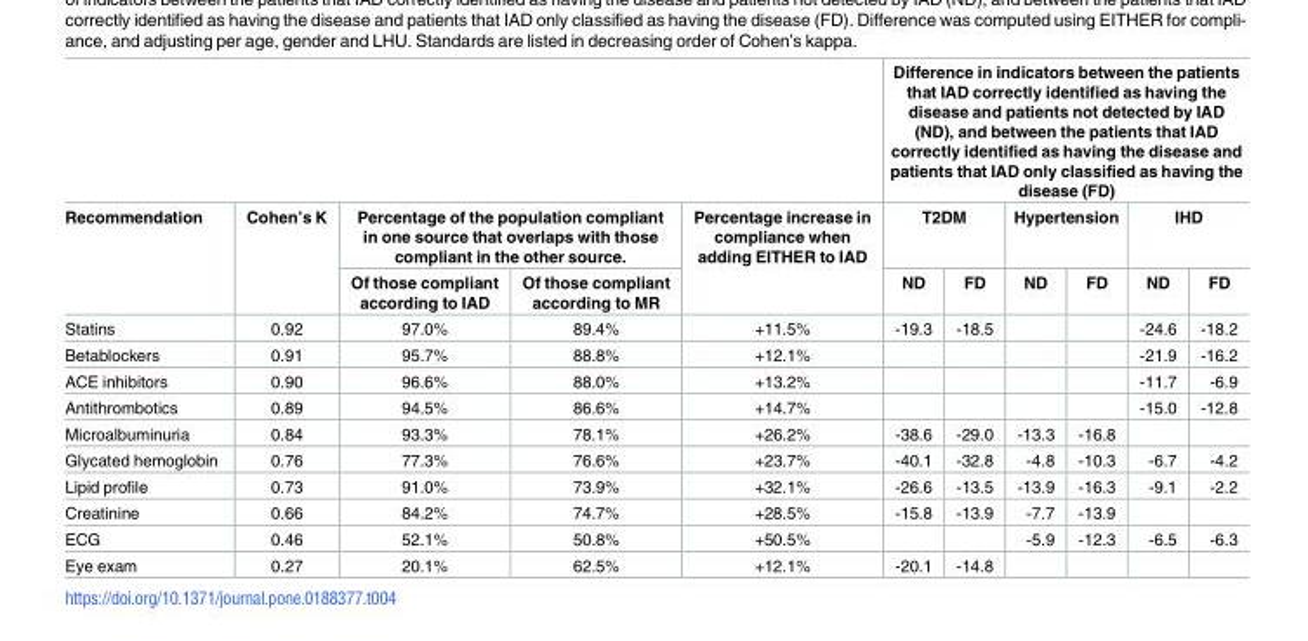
<table><thead><tr><td rowspan="3">Recommendation</td><td rowspan="3">Cohen’s K</td><td></td><td></td><td rowspan="3">Percentage increase in compliance when adding EITHER to IAD</td><td colspan="6">Difference in indicators between the patients that IAD correctly identified as having the disease and patients not detected by IAD (ND), and between the patients that IAD correctly identified as having the disease and patients that IAD only classified as having the disease (FD)</td></tr><tr><td colspan="2">Percentage of the population compliant in one source that overlaps with those compliant in the other source.</td><td colspan="2">T2DM</td><td colspan="2">Hypertension</td><td colspan="2">IHD</td></tr><tr><td>Of those compliant according to IAD</td><td>Of those compliant according to MR</td><td>ND</td><td>FD</td><td>ND</td><td>FD</td><td>ND</td><td>FD</td></tr></thead><tbody><tr><td>Statins</td><td>0.92</td><td>97.0%</td><td>89.4%</td><td>+11.5%</td><td>-19.3</td><td>-18.5</td><td></td><td></td><td>-24.6</td><td>-18.2</td></tr><tr><td>Betablockers</td><td>0.91</td><td>95.7%</td><td>88.8%</td><td>+12.1%</td><td></td><td></td><td></td><td></td><td>-21.9</td><td>-16.2</td></tr><tr><td>ACE inhibitors</td><td>0.90</td><td>96.6%</td><td>88.0%</td><td>+13.2%</td><td></td><td></td><td></td><td></td><td>-11.7</td><td>-6.9</td></tr><tr><td>Antithrombotics</td><td>0.89</td><td>94.5%</td><td>86.6%</td><td>+14.7%</td><td></td><td></td><td></td><td></td><td>-15.0</td><td>-12.8</td></tr><tr><td>Microalbuminuria</td><td>0.84</td><td>93.3%</td><td>78.1%</td><td>+26.2%</td><td>-38.6</td><td>-29.0</td><td>-13.3</td><td>-16.8</td><td></td><td></td></tr><tr><td>Glycated hemoglobin</td><td>0.76</td><td>77.3%</td><td>76.6%</td><td>+23.7%</td><td>-40.1</td><td>-32.8</td><td>-4.8</td><td>-10.3</td><td>-6.7</td><td>-4.2</td></tr><tr><td>Lipid profile</td><td>0.73</td><td>91.0%</td><td>73.9%</td><td>+32.1%</td><td>-26.6</td><td>-13.5</td><td>-13.9</td><td>-16.3</td><td>-9.1</td><td>-2.2</td></tr><tr><td>Creatinine</td><td>0.66</td><td>84.2%</td><td>74.7%</td><td>+28.5%</td><td>-15.8</td><td>-13.9</td><td>-7.7</td><td>-13.9</td><td></td><td></td></tr><tr><td>ECG</td><td>0.46</td><td>52.1%</td><td>50.8%</td><td>+50.5%</td><td></td><td></td><td>-5.9</td><td>-12.3</td><td>-6.5</td><td>-6.3</td></tr><tr><td>Eye exam</td><td>0.27</td><td>20.1%</td><td>62.5%</td><td>+12.1%</td><td>-20.1</td><td>-14.8</td><td></td><td></td><td></td><td></td></tr></tbody></table>